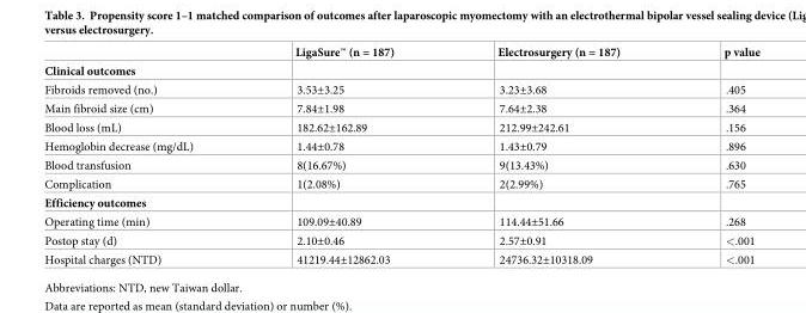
<table><thead><tr><td></td><td>LigaSure™ (n = 187)</td><td>Electrosurgery (n = 187)</td><td>p value</td></tr></thead><tbody><tr><td colspan="4">Clinical outcomes</td></tr><tr><td>Fibroids removed (no.)</td><td>3.53±3.25</td><td>3.23±3.68</td><td>.405</td></tr><tr><td>Main fibroid size (cm)</td><td>7.84±1.98</td><td>7.64±2.38</td><td>.364</td></tr><tr><td>Blood loss (mL)</td><td>182.62±162.89</td><td>212.99±242.61</td><td>.156</td></tr><tr><td>Hemoglobin decrease (mg/dL)</td><td>1.44±0.78</td><td>1.43±0.79</td><td>.896</td></tr><tr><td>Blood transfusion</td><td>8(16.67%)</td><td>9(13.43%)</td><td>.630</td></tr><tr><td>Complication</td><td>1(2.08%)</td><td>2(2.99%)</td><td>.765</td></tr><tr><td colspan="4">Efficiency outcomes</td></tr><tr><td>Operating time (min)</td><td>109.09±40.89</td><td>114.44±51.66</td><td>.268</td></tr><tr><td>Postop stay (d)</td><td>2.10±0.46</td><td>2.57±0.91</td><td>&lt;.001</td></tr><tr><td>Hospital charges (NTD)</td><td>41219.44±12862.03</td><td>24736.32±10318.09</td><td>&lt;.001</td></tr></tbody></table>